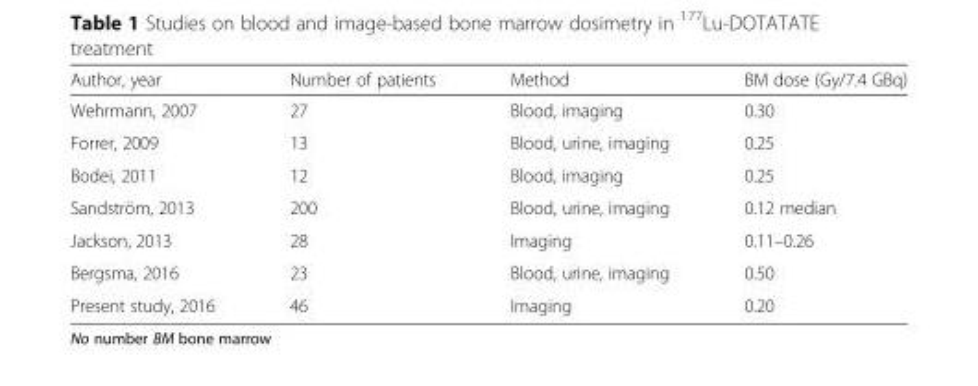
<table><thead><tr><td>Author, year</td><td>Number of patients</td><td>Method</td><td>BM dose (Gy/7.4 GBq)</td></tr></thead><tbody><tr><td>Wehrmann, 2007</td><td>27</td><td>Blood, imaging</td><td>0.30</td></tr><tr><td>Forrer, 2009</td><td>13</td><td>Blood, urine, imaging</td><td>0.25</td></tr><tr><td>Bodei, 2011</td><td>12</td><td>Blood, imaging</td><td>0.25</td></tr><tr><td>Sandström, 2013</td><td>200</td><td>Blood, urine, imaging</td><td>0.12 median</td></tr><tr><td>Jackson, 2013</td><td>28</td><td>Imaging</td><td>0.11–0.26</td></tr><tr><td>Bergsma, 2016</td><td>23</td><td>Blood, urine, imaging</td><td>0.50</td></tr><tr><td>Present study, 2016</td><td>46</td><td>Imaging</td><td>0.20</td></tr></tbody></table>